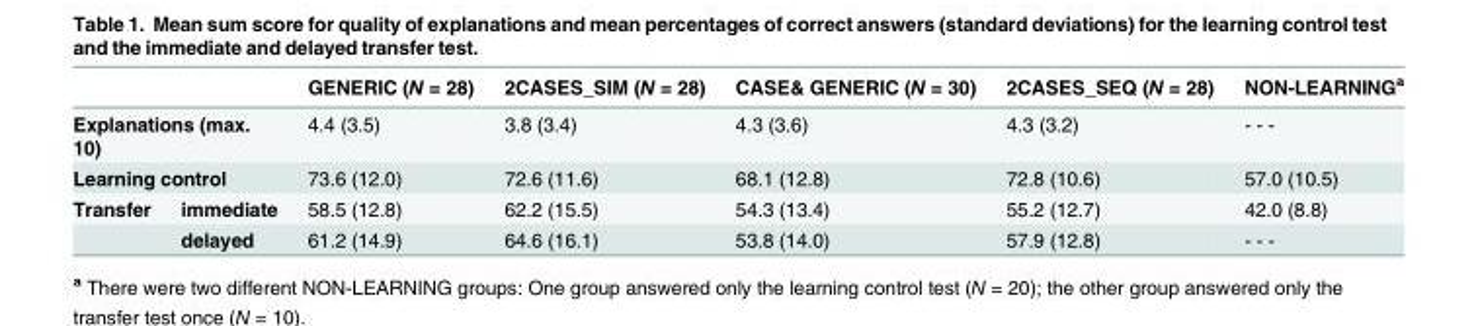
<table><thead><tr><td></td><td></td><td>GENERIC (N = 28)</td><td>2CASES_SIM (N = 28)</td><td>CASE&amp; GENERIC (N = 30)</td><td>2CASES_SEQ (N = 28)</td><td>NON-LEARNING<sup>a</sup></td></tr></thead><tbody><tr><td colspan="2">Explanations (max. 10)</td><td>4.4 (3.5)</td><td>3.8 (3.4)</td><td>4.3 (3.6)</td><td>4.3 (3.2)</td><td>- - -</td></tr><tr><td colspan="2">Learning control</td><td>73.6 (12.0)</td><td>72.6 (11.6)</td><td>68.1 (12.8)</td><td>72.8 (10.6)</td><td>57.0 (10.5)</td></tr><tr><td rowspan="2">Transfer</td><td>immediate</td><td>58.5 (12.8)</td><td>62.2 (15.5)</td><td>54.3 (13.4)</td><td>55.2 (12.7)</td><td>42.0 (8.8)</td></tr><tr><td>delayed</td><td>61.2 (14.9)</td><td>64.6 (16.1)</td><td>53.8 (14.0)</td><td>57.9 (12.8)</td><td>- - -</td></tr></tbody></table>